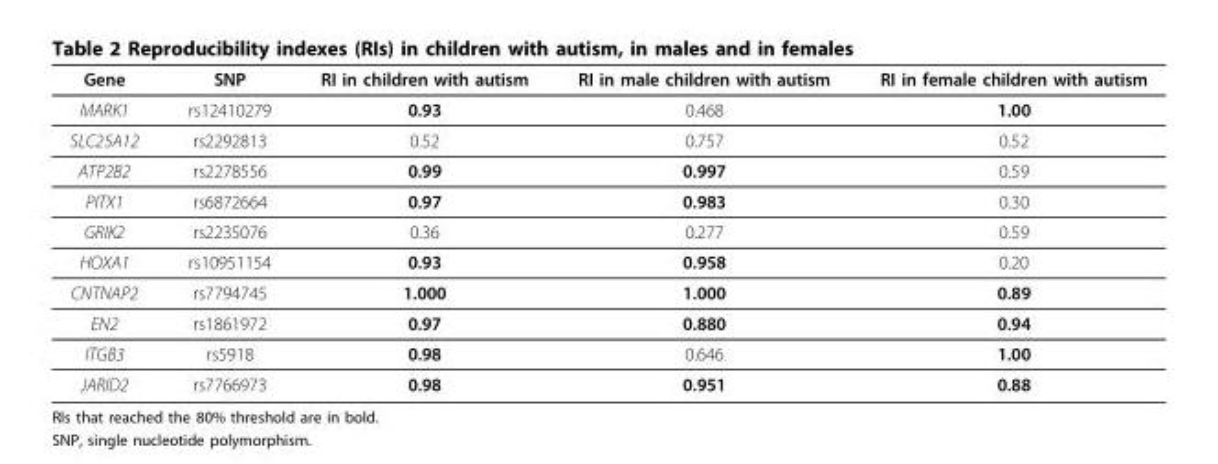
<table><thead><tr><td>Gene</td><td>SNP</td><td>RI in children with autism</td><td>RI in male children with autism</td><td>RI in female children with autism</td></tr></thead><tbody><tr><td>MARK1</td><td>rs12410279</td><td>0.93</td><td>0.468</td><td>1.00</td></tr><tr><td>SLC25A12</td><td>rs2292813</td><td>0.52</td><td>0.757</td><td>0.52</td></tr><tr><td>ATP2B2</td><td>rs2278556</td><td>0.99</td><td>0.997</td><td>0.59</td></tr><tr><td>PITX1</td><td>rs6872664</td><td>0.97</td><td>0.983</td><td>0.30</td></tr><tr><td>GRIK2</td><td>rs2235076</td><td>0.36</td><td>0.277</td><td>0.59</td></tr><tr><td>HOXA1</td><td>rs10951154</td><td>0.93</td><td>0.958</td><td>0.20</td></tr><tr><td>CNTNAP2</td><td>rs7794745</td><td>1.000</td><td>1.000</td><td>0.89</td></tr><tr><td>EN2</td><td>rs1861972</td><td>0.97</td><td>0.880</td><td>0.94</td></tr><tr><td>ITGB3</td><td>rs5918</td><td>0.98</td><td>0.646</td><td>1.00</td></tr><tr><td>JARID2</td><td>rs7766973</td><td>0.98</td><td>0.951</td><td>0.88</td></tr></tbody></table>